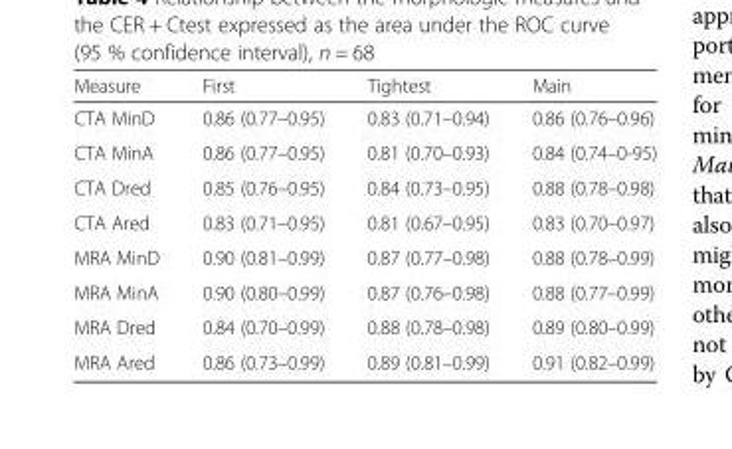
<table><thead><tr><td>Measure</td><td>First</td><td>Tightest</td><td>Main</td></tr></thead><tbody><tr><td>CTA MinD</td><td>0.86 (0.77–0.95)</td><td>0.83 (0.71–0.94)</td><td>0.86 (0.76–0.96)</td></tr><tr><td>CTA MinA</td><td>0.86 (0.77–0.95)</td><td>0.81 (0.70–0.93)</td><td>0.84 (0.74–0-95)</td></tr><tr><td>CTA Dred</td><td>0.85 (0.76–0.95)</td><td>0.84 (0.73–0.95)</td><td>0.88 (0.78–0.98)</td></tr><tr><td>CTA Ared</td><td>0.83 (0.71–0.95)</td><td>0.81 (0.67–0.95)</td><td>0.83 (0.70–0.97)</td></tr><tr><td>MRA MinD</td><td>0.90 (0.81–0.99)</td><td>0.87 (0.77–0.98)</td><td>0.88 (0.78–0.99)</td></tr><tr><td>MRA MinA</td><td>0.90 (0.80–0.99)</td><td>0.87 (0.76–0.98)</td><td>0.88 (0.77–0.99)</td></tr><tr><td>MRA Dred</td><td>0.84 (0.70–0.99)</td><td>0.88 (0.78–0.98)</td><td>0.89 (0.80–0.99)</td></tr><tr><td>MRA Ared</td><td>0.86 (0.73–0.99)</td><td>0.89 (0.81–0.99)</td><td>0.91 (0.82–0.99)</td></tr></tbody></table>